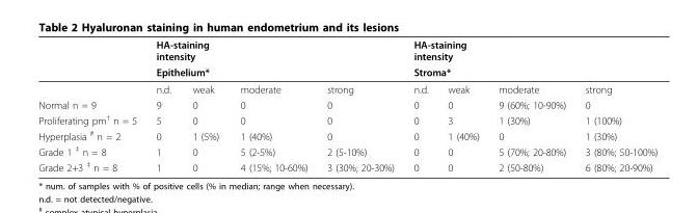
<table><thead><tr><td rowspan="3"></td><td colspan="3">HA-staining intensity</td><td rowspan="3">strong</td><td colspan="3">HA-staining intensity</td><td rowspan="3">strong</td></tr><tr><td colspan="2">Epithelium*</td><td rowspan="2">moderate</td><td colspan="2">Stroma*</td><td rowspan="2">moderate</td></tr><tr><td>n.d.</td><td>weak</td><td>n.d.</td><td>weak</td></tr></thead><tbody><tr><td>Normal n = 9</td><td>9</td><td>0</td><td>0</td><td>0</td><td>0</td><td>0</td><td>9 (60%; 10-90%)</td><td>0</td></tr><tr><td>Proliferating pm<sup>†</sup> n = 5</td><td>5</td><td>0</td><td>0</td><td>0</td><td>0</td><td>3</td><td>1 (30%)</td><td>1 (100%)</td></tr><tr><td>Hyperplasia <sup>#</sup> n = 2</td><td>0</td><td>1 (5%)</td><td>1 (40%)</td><td>0</td><td>0</td><td>1 (40%)</td><td>0</td><td>1 (30%)</td></tr><tr><td>Grade 1 <sup>‡</sup> n = 8</td><td>1</td><td>0</td><td>5 (2-5%)</td><td>2 (5-10%)</td><td>0</td><td>0</td><td>5 (70%; 20-80%)</td><td>3 (80%; 50-100%)</td></tr><tr><td>Grade 2+3 <sup>‡</sup> n = 8</td><td>1</td><td>0</td><td>4 (15%; 10-60%)</td><td>3 (30%; 20-30%)</td><td>0</td><td>0</td><td>2 (50-80%)</td><td>6 (80%; 20-90%)</td></tr></tbody></table>